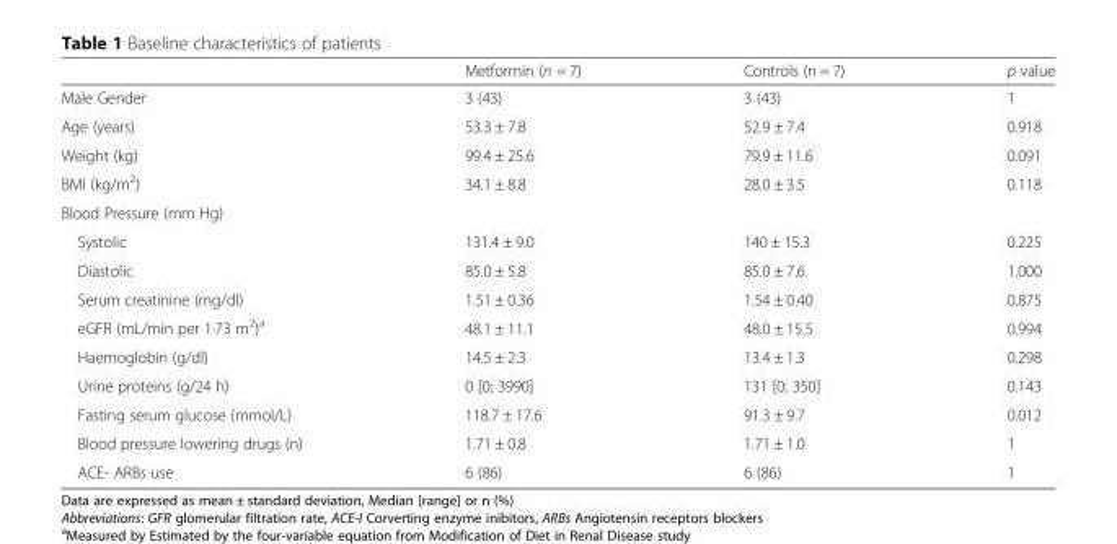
<table><thead><tr><td></td><td>Metformin (n = 7)</td><td>Controls (n = 7)</td><td>p value</td></tr></thead><tbody><tr><td>Male Gender</td><td>3 (43)</td><td>3 (43)</td><td>1</td></tr><tr><td>Age (years)</td><td>53.3 ± 7.8</td><td>52.9 ± 7.4</td><td>0.918</td></tr><tr><td>Weight (kg)</td><td>99.4 ± 25.6</td><td>79.9 ± 11.6</td><td>0.091</td></tr><tr><td>BMI (kg/m<sup>2</sup>)</td><td>34.1 ± 8.8</td><td>28.0 ± 3.5</td><td>0.118</td></tr><tr><td colspan="4">Blood Pressure (mm Hg)</td></tr><tr><td>Systolic</td><td>131.4 ± 9.0</td><td>140 ± 15.3</td><td>0.225</td></tr><tr><td>Diastolic</td><td>85.0 ± 5.8</td><td>85.0 ± 7.6</td><td>1.000</td></tr><tr><td>Serum creatinine (mg/dl)</td><td>1.51 ± 0.36</td><td>1.54 ± 0.40</td><td>0.875</td></tr><tr><td>eGFR (mL/min per 1·73 m<sup>2</sup>)<sup>a</sup></td><td>48.1 ± 11.1</td><td>48.0 ± 15.5</td><td>0.994</td></tr><tr><td>Haemoglobin (g/dl)</td><td>14.5 ± 2.3</td><td>13.4 ± 1.3</td><td>0.298</td></tr><tr><td>Urine proteins (g/24 h)</td><td>0 [0; 3990]</td><td>131 [0; 350]</td><td>0.143</td></tr><tr><td>Fasting serum glucose (mmol/L)</td><td>118.7 ± 17.6</td><td>91.3 ± 9.7</td><td>0.012</td></tr><tr><td>Blood pressure lowering drugs (n)</td><td>1.71 ± 0.8</td><td>1.71 ± 1.0</td><td>1</td></tr><tr><td>ACE- ARBs use</td><td>6 (86)</td><td>6 (86)</td><td>1</td></tr></tbody></table>